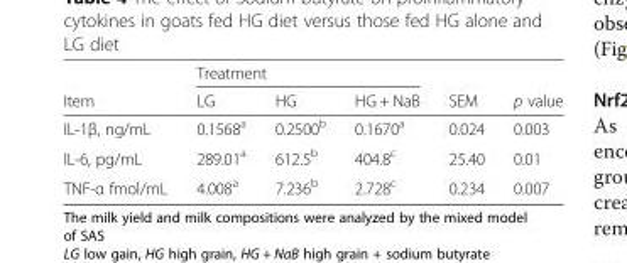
<table><thead><tr><td rowspan="2">Item</td><td colspan="3">Treatment</td><td rowspan="2">SEM</td><td rowspan="2">p value</td></tr><tr><td>LG</td><td>HG</td><td>HG + NaB</td></tr></thead><tbody><tr><td>IL-1β, ng/mL</td><td>0.1568<sup>a</sup></td><td>0.2500<sup>b</sup></td><td>0.1670<sup>a</sup></td><td>0.024</td><td>0.003</td></tr><tr><td>IL-6, pg/mL</td><td>289.01<sup>a</sup></td><td>612.5<sup>b</sup></td><td>404.8<sup>c</sup></td><td>25.40</td><td>0.01</td></tr><tr><td>TNF-α fmol/mL</td><td>4.008<sup>a</sup></td><td>7.236<sup>b</sup></td><td>2.728<sup>c</sup></td><td>0.234</td><td>0.007</td></tr></tbody></table>